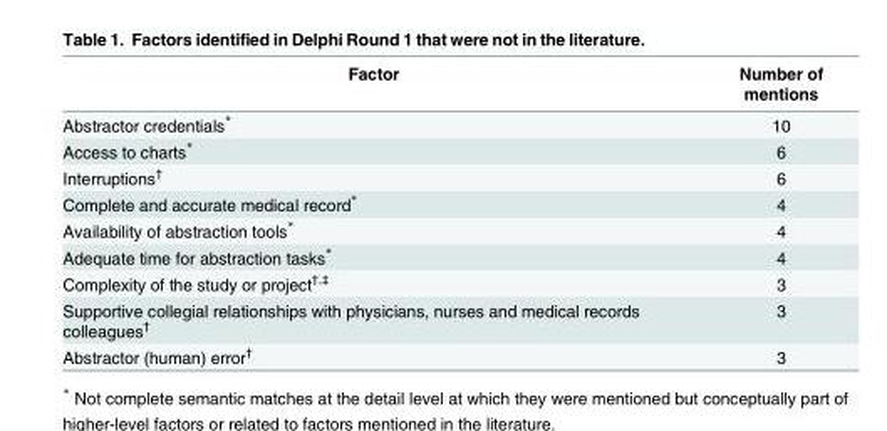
<table><thead><tr><td>Factor</td><td>Number of mentions</td></tr></thead><tbody><tr><td>Abstractor credentials*</td><td>10</td></tr><tr><td>Access to charts*</td><td>6</td></tr><tr><td>Interruptions<sup>†</sup></td><td>6</td></tr><tr><td>Complete and accurate medical record*</td><td>4</td></tr><tr><td>Availability of abstraction tools*</td><td>4</td></tr><tr><td>Adequate time for abstraction tasks*</td><td>4</td></tr><tr><td>Complexity of the study or project<sup>†,‡</sup></td><td>3</td></tr><tr><td>Supportive collegial relationships with physicians, nurses and medical records colleagues<sup>†</sup></td><td>3</td></tr><tr><td>Abstractor (human) error<sup>†</sup></td><td>3</td></tr></tbody></table>